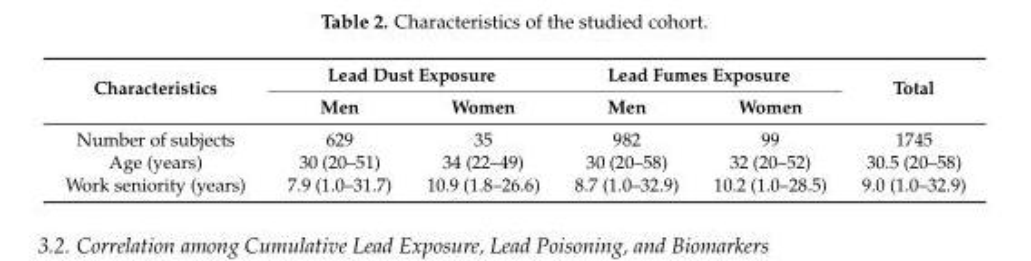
<table><thead><tr><td rowspan="2">Characteristics</td><td colspan="2">Lead Dust Exposure</td><td colspan="2">Lead Fumes Exposure</td><td rowspan="2">Total</td></tr><tr><td>Men</td><td>Women</td><td>Men</td><td>Women</td></tr></thead><tbody><tr><td>Number of subjects</td><td>629</td><td>35</td><td>982</td><td>99</td><td>1745</td></tr><tr><td>Age (years)</td><td>30 (20–51)</td><td>34 (22–49)</td><td>30 (20–58)</td><td>32 (20–52)</td><td>30.5 (20–58)</td></tr><tr><td>Work seniority (years)</td><td>7.9 (1.0–31.7)</td><td>10.9 (1.8–26.6)</td><td>8.7 (1.0–32.9)</td><td>10.2 (1.0–28.5)</td><td>9.0 (1.0–32.9)</td></tr></tbody></table>